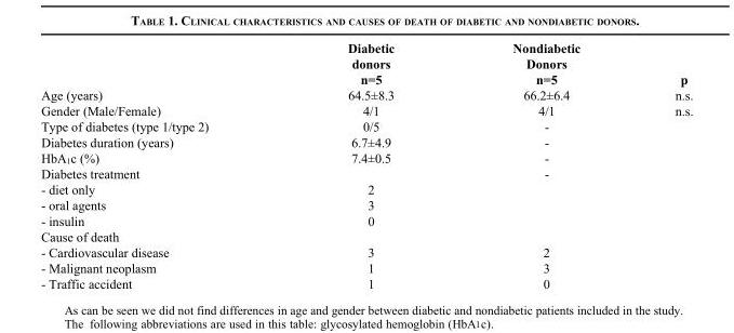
<table><thead><tr><td></td><td>Diabetic donors n=5</td><td>Nondiabetic Donors n=5</td><td>p</td></tr></thead><tbody><tr><td>Age (years)</td><td>64.5±8.3</td><td>66.2±6.4</td><td>n.s.</td></tr><tr><td>Gender (Male/Female)</td><td>4/1</td><td>4/1</td><td>n.s.</td></tr><tr><td>Type of diabetes (type 1/type 2)</td><td>0/5</td><td>-</td><td></td></tr><tr><td>Diabetes duration (years)</td><td>6.7±4.9</td><td>-</td><td></td></tr><tr><td>HbA<sub>1</sub>c (%)</td><td>7.4±0.5</td><td>-</td><td></td></tr><tr><td>Diabetes treatment</td><td></td><td>-</td><td></td></tr><tr><td>- diet only</td><td>2</td><td></td><td></td></tr><tr><td>- oral agents</td><td>3</td><td></td><td></td></tr><tr><td>- insulin</td><td>0</td><td></td><td></td></tr><tr><td colspan="4">Cause of death</td></tr><tr><td>- Cardiovascular disease</td><td>3</td><td>2</td><td></td></tr><tr><td>- Malignant neoplasm</td><td>1</td><td>3</td><td></td></tr><tr><td>- Traffic accident</td><td>1</td><td>0</td><td></td></tr></tbody></table>